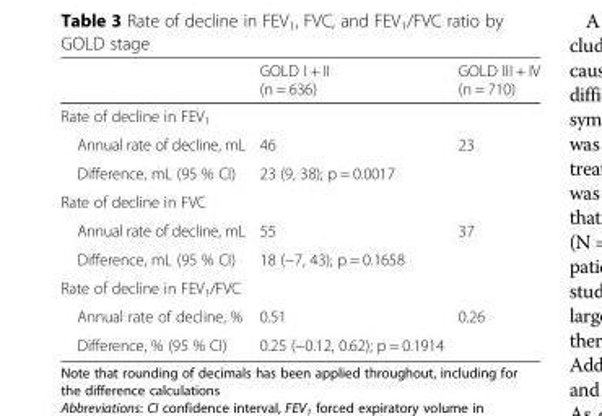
<table><thead><tr><td></td><td>GOLD I + II (n = 636)</td><td>GOLD III + IV (n = 710)</td></tr></thead><tbody><tr><td colspan="3">Rate of decline in FEV<sub>1</sub></td></tr><tr><td>Annual rate of decline, mL</td><td>46</td><td>23</td></tr><tr><td>Difference, mL (95 % CI)</td><td>23 (9, 38); p = 0.0017</td><td></td></tr><tr><td colspan="3">Rate of decline in FVC</td></tr><tr><td>Annual rate of decline, mL</td><td>55</td><td>37</td></tr><tr><td>Difference, mL (95 % CI)</td><td>18 (−7, 43); p = 0.1658</td><td></td></tr><tr><td colspan="3">Rate of decline in FEV<sub>1</sub>/FVC</td></tr><tr><td>Annual rate of decline, %</td><td>0.51</td><td>0.26</td></tr><tr><td>Difference, % (95 % CI)</td><td>0.25 (−0.12, 0.62); p = 0.1914</td><td></td></tr></tbody></table>